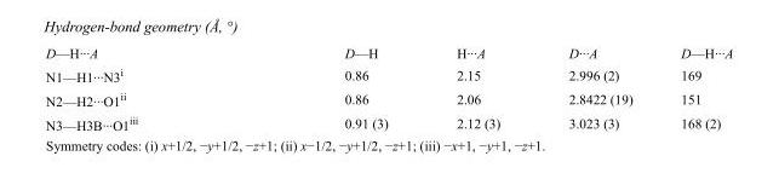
<table><tbody><tr><td>D—H···A</td><td>D—H</td><td>H···A</td><td>D···A</td><td>D—H···A</td></tr><tr><td>N1—H1···N3<sup>i</sup></td><td>0.86</td><td>2.15</td><td>2.996 (2)</td><td>169</td></tr><tr><td>N2—H2···O1<sup>ii</sup></td><td>0.86</td><td>2.06</td><td>2.8422 (19)</td><td>151</td></tr><tr><td>N3—H3B···O1<sup>iii</sup></td><td>0.91 (3)</td><td>2.12 (3)</td><td>3.023 (3)</td><td>168 (2)</td></tr></tbody></table>